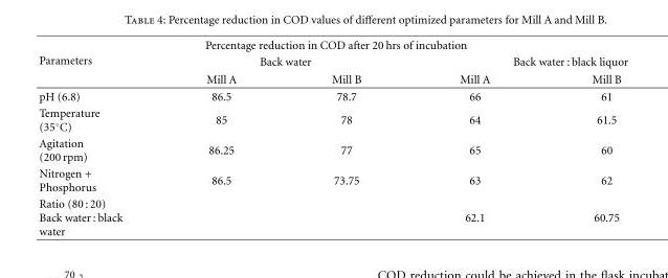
<table><thead><tr><td rowspan="3">Parameters</td><td colspan="4">Percentage reduction in COD after 20 hrs of incubation</td></tr><tr><td colspan="2">Back water</td><td colspan="2">Back water : black liquor</td></tr><tr><td>Mill A</td><td>Mill B</td><td>Mill A</td><td>Mill B</td></tr></thead><tbody><tr><td>pH (6.8)</td><td>86.5</td><td>78.7</td><td>66</td><td>61</td></tr><tr><td>Temperature (35◦C)</td><td>85</td><td>78</td><td>64</td><td>61.5</td></tr><tr><td>Agitation (200 rpm)</td><td>86.25</td><td>77</td><td>65</td><td>60</td></tr><tr><td>Nitrogen + Phosphorus</td><td>86.5</td><td>73.75</td><td>63</td><td>62</td></tr><tr><td>Ratio (80 : 20) Back water : black water</td><td></td><td></td><td>62.1</td><td>60.75</td></tr></tbody></table>